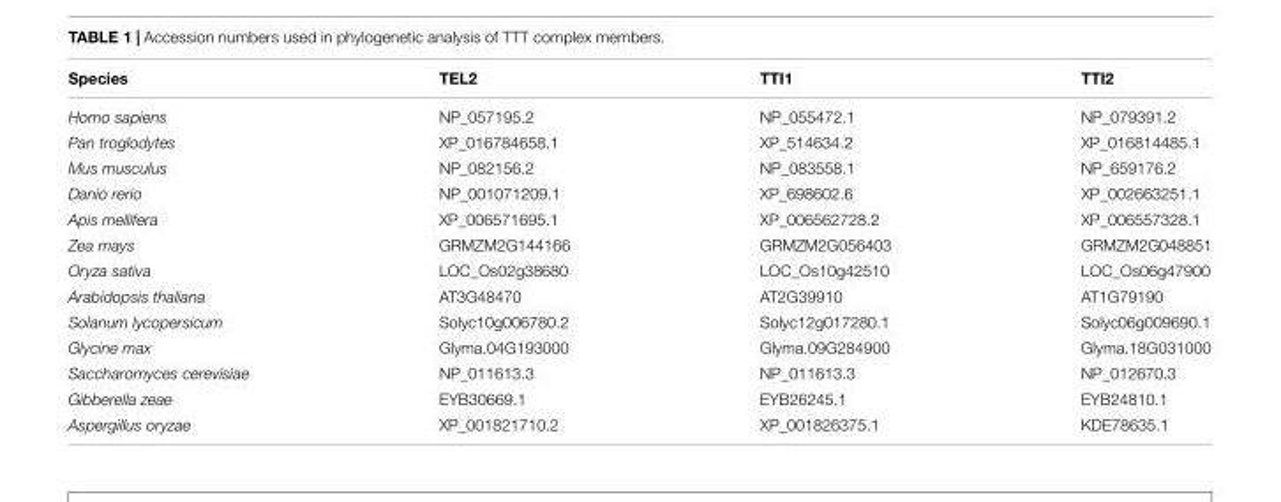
<table><thead><tr><td>Species</td><td>TEL2</td><td>TTI1</td><td>TTI2</td></tr></thead><tbody><tr><td>Homo sapiens</td><td>NP_057195.2</td><td>NP_055472.1</td><td>NP_079391.2</td></tr><tr><td>Pan troglodytes</td><td>XP_016784658.1</td><td>XP_514634.2</td><td>XP_016814485.1</td></tr><tr><td>Mus musculus</td><td>NP_082156.2</td><td>NP_083558.1</td><td>NP_659176.2</td></tr><tr><td>Danio rerio</td><td>NP_001071209.1</td><td>XP_698602.6</td><td>XP_002663251.1</td></tr><tr><td>Apis mellifera</td><td>XP_006571695.1</td><td>XP_006562728.2</td><td>XP_006557328.1</td></tr><tr><td>Zea mays</td><td>GRMZM2G144166</td><td>GRMZM2G056403</td><td>GRMZM2G048851</td></tr><tr><td>Oryza sativa</td><td>LOC_Os02g38680</td><td>LOC_Os10g42510</td><td>LOC_Os06g47900</td></tr><tr><td>Arabidopsis thaliana</td><td>AT3G48470</td><td>AT2G39910</td><td>AT1G79190</td></tr><tr><td>Solanum lycopersicum</td><td>Solyc10g006780.2</td><td>Solyc12g017280.1</td><td>Solyc06g009690.1</td></tr><tr><td>Glycine max</td><td>Glyma.04G193000</td><td>Glyma.09G284900</td><td>Glyma.18G031000</td></tr><tr><td>Saccharomyces cerevisiae</td><td>NP_011613.3</td><td>NP_011613.3</td><td>NP_012670.3</td></tr><tr><td>Gibberella zeae</td><td>EYB30669.1</td><td>EYB26245.1</td><td>EYB24810.1</td></tr><tr><td>Aspergillus oryzae</td><td>XP_001821710.2</td><td>XP_001826375.1</td><td>KDE78635.1</td></tr></tbody></table>